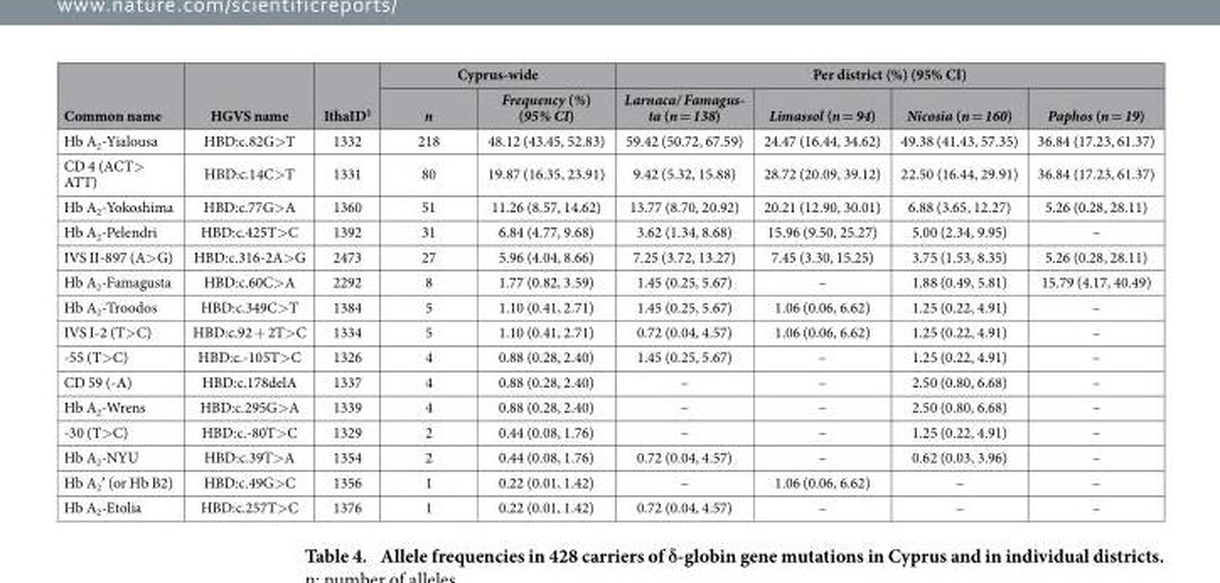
<table><thead><tr><td rowspan="2">Common name</td><td rowspan="2">HGVS name</td><td rowspan="2">IthaID<sup>1</sup></td><td colspan="2">Cyprus-wide</td><td colspan="4">Per district (%) (95% CI)</td></tr><tr><td>n</td><td>Frequency (%) (95% CI)</td><td>Larnaca/ Famagus- ta (n = 138)</td><td>Limassol (n = 94)</td><td>Nicosia (n = 160)</td><td>Paphos (n = 19)</td></tr></thead><tbody><tr><td>Hb A<sub>2</sub>-Yialousa</td><td>HBD:c.82G&gt; T</td><td>1332</td><td>218</td><td>48.12 (43.45, 52.83)</td><td>59.42 (50.72, 67.59)</td><td>24.47 (16.44, 34.62)</td><td>49.38 (41.43, 57.35)</td><td>36.84 (17.23, 61.37)</td></tr><tr><td>CD 4 (ACT&gt; ATT)</td><td>HBD:c.14C&gt; T</td><td>1331</td><td>80</td><td>19.87 (16.35, 23.91)</td><td>9.42 (5.32, 15.88)</td><td>28.72 (20.09, 39.12)</td><td>22.50 (16.44, 29.91)</td><td>36.84 (17.23, 61.37)</td></tr><tr><td>Hb A<sub>2</sub>-Yokoshima</td><td>HBD:c.77G&gt; A</td><td>1360</td><td>51</td><td>11.26 (8.57, 14.62)</td><td>13.77 (8.70, 20.92)</td><td>20.21 (12.90, 30.01)</td><td>6.88 (3.65, 12.27)</td><td>5.26 (0.28, 28.11)</td></tr><tr><td>Hb A<sub>2</sub>-Pelendri</td><td>HBD:c.425T&gt; C</td><td>1392</td><td>31</td><td>6.84 (4.77, 9.68)</td><td>3.62 (1.34, 8.68)</td><td>15.96 (9.50, 25.27)</td><td>5.00 (2.34, 9.95)</td><td>–</td></tr><tr><td>IVS II-897 (A&gt; G)</td><td>HBD:c.316-2A&gt; G</td><td>2473</td><td>27</td><td>5.96 (4.04, 8.66)</td><td>7.25 (3.72, 13.27)</td><td>7.45 (3.30, 15.25)</td><td>3.75 (1.53, 8.35)</td><td>5.26 (0.28, 28.11)</td></tr><tr><td>Hb A<sub>2</sub>-Famagusta</td><td>HBD:c.60C&gt; A</td><td>2292</td><td>8</td><td>1.77 (0.82, 3.59)</td><td>1.45 (0.25, 5.67)</td><td>–</td><td>1.88 (0.49, 5.81)</td><td>15.79 (4.17, 40.49)</td></tr><tr><td>Hb A<sub>2</sub>-Troodos</td><td>HBD:c.349C&gt; T</td><td>1384</td><td>5</td><td>1.10 (0.41, 2.71)</td><td>1.45 (0.25, 5.67)</td><td>1.06 (0.06, 6.62)</td><td>1.25 (0.22, 4.91)</td><td>–</td></tr><tr><td>IVS I-2 (T&gt; C)</td><td>HBD:c.92 + 2T&gt; C</td><td>1334</td><td>5</td><td>1.10 (0.41, 2.71)</td><td>0.72 (0.04, 4.57)</td><td>1.06 (0.06, 6.62)</td><td>1.25 (0.22, 4.91)</td><td>–</td></tr><tr><td>- 55 (T&gt; C)</td><td>HBD:c.-105T&gt; C</td><td>1326</td><td>4</td><td>0.88 (0.28, 2.40)</td><td>1.45 (0.25, 5.67)</td><td>–</td><td>1.25 (0.22, 4.91)</td><td>–</td></tr><tr><td>CD 59 (-A)</td><td>HBD:c.178delA</td><td>1337</td><td>4</td><td>0.88 (0.28, 2.40)</td><td>–</td><td>–</td><td>2.50 (0.80, 6.68)</td><td>–</td></tr><tr><td>Hb A<sub>2</sub>-Wrens</td><td>HBD:c.295G&gt; A</td><td>1339</td><td>4</td><td>0.88 (0.28, 2.40)</td><td>–</td><td>–</td><td>2.50 (0.80, 6.68)</td><td>–</td></tr><tr><td>- 30 (T&gt; C)</td><td>HBD:c.-80T&gt; C</td><td>1329</td><td>2</td><td>0.44 (0.08, 1.76)</td><td>–</td><td>–</td><td>1.25 (0.22, 4.91)</td><td>–</td></tr><tr><td>Hb A<sub>2</sub>-NYU</td><td>HBD:c.39T&gt; A</td><td>1354</td><td>2</td><td>0.44 (0.08, 1.76)</td><td>0.72 (0.04, 4.57)</td><td>–</td><td>0.62 (0.03, 3.96)</td><td>–</td></tr><tr><td>Hb A<sub>2</sub>′ (or Hb B2)</td><td>HBD:c.49G&gt; C</td><td>1356</td><td>1</td><td>0.22 (0.01, 1.42)</td><td>–</td><td>1.06 (0.06, 6.62)</td><td>–</td><td>–</td></tr><tr><td>Hb A<sub>2</sub>-Etolia</td><td>HBD:c.257T&gt; C</td><td>1376</td><td>1</td><td>0.22 (0.01, 1.42)</td><td>0.72 (0.04, 4.57)</td><td>–</td><td>–</td><td>–</td></tr></tbody></table>